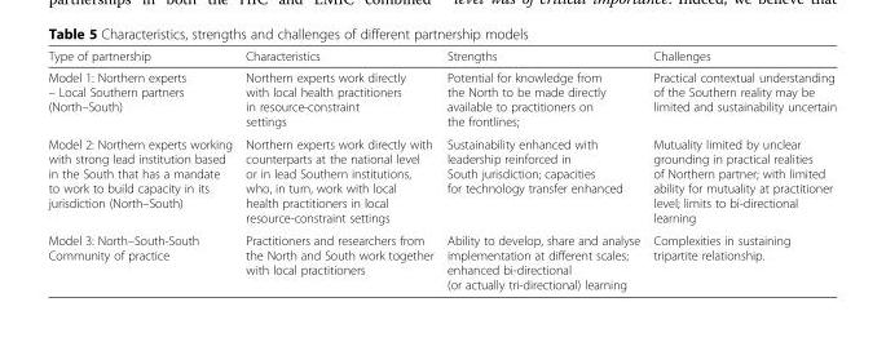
<table><thead><tr><td>Type of partnership</td><td>Characteristics</td><td>Strengths</td><td>Challenges</td></tr></thead><tbody><tr><td>Model 1: Northern experts – Local Southern partners (North–South)</td><td>Northern experts work directly with local health practitioners in resource-constraint settings</td><td>Potential for knowledge from the North to be made directly available to practitioners on the frontlines;</td><td>Practical contextual understanding of the Southern reality may be limited and sustainability uncertain</td></tr><tr><td>Model 2: Northern experts working with strong lead institution based in the South that has a mandate to work to build capacity in its jurisdiction (North–South)</td><td>Northern experts work directly with counterparts at the national level or in lead Southern institutions, who, in turn, work with local health practitioners in local resource-constraint settings</td><td>Sustainability enhanced with leadership reinforced in South jurisdiction; capacities for technology transfer enhanced</td><td>Mutuality limited by unclear grounding in practical realities of Northern partner; with limited ability for mutuality at practitioner level; limits to bi-directional learning</td></tr><tr><td>Model 3: North–South-South Community of practice</td><td>Practitioners and researchers from the North and South work together with local practitioners</td><td>Ability to develop, share and analyse implementation at different scales; enhanced bi-directional (or actually tri-directional) learning</td><td>Complexities in sustaining tripartite relationship.</td></tr></tbody></table>